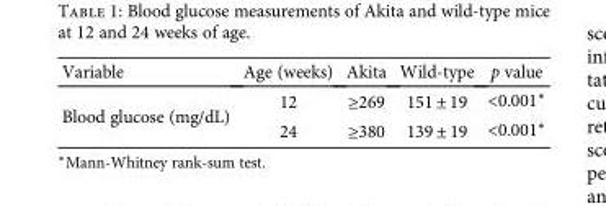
<table><thead><tr><td>Variable</td><td>Age (weeks)</td><td>Akita</td><td>Wild-type</td><td>p value</td></tr></thead><tbody><tr><td rowspan="2">Blood glucose (mg/dL)</td><td>12</td><td>≥269</td><td>151 ± 19</td><td>&lt;0.001∗</td></tr><tr><td>24</td><td>≥380</td><td>139 ± 19</td><td>&lt;0.001∗</td></tr></tbody></table>